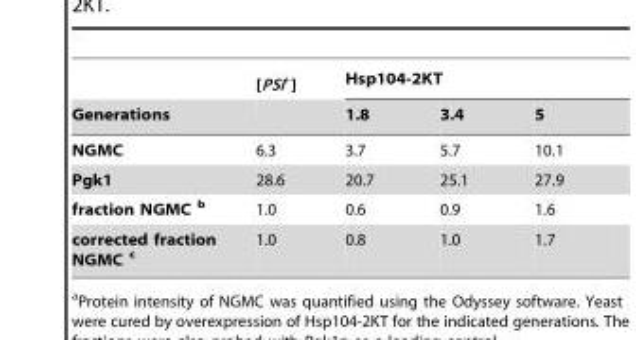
<table><thead><tr><td rowspan="2">Generations</td><td rowspan="2">[PSI<sup>+</sup>]</td><td colspan="3">Hsp104-2KT</td></tr><tr><td>1.8</td><td>3.4</td><td>5</td></tr></thead><tbody><tr><td>NGMC</td><td>6.3</td><td>3.7</td><td>5.7</td><td>10.1</td></tr><tr><td>Pgk1</td><td>28.6</td><td>20.7</td><td>25.1</td><td>27.9</td></tr><tr><td>fraction NGMC b</td><td>1.0</td><td>0.6</td><td>0.9</td><td>1.6</td></tr><tr><td>corrected fraction NGMC c</td><td>1.0</td><td>0.8</td><td>1.0</td><td>1.7</td></tr></tbody></table>